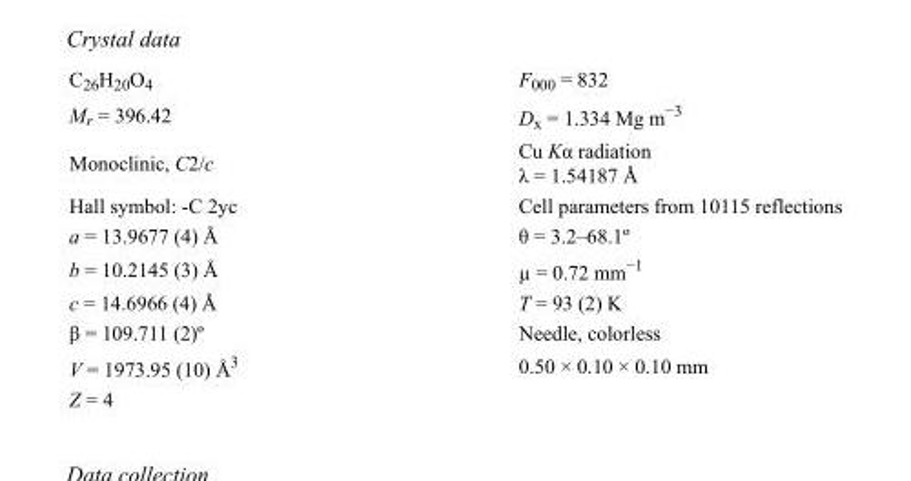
<table><tbody><tr><td>C<sub>26</sub>H<sub>20</sub>O<sub>4</sub></td><td>F<sub>000</sub> = 832</td></tr><tr><td>M<sub>r</sub> = 396.42</td><td>D<sub>x</sub> = 1.334 Mg m<sup>−3</sup></td></tr><tr><td>Monoclinic, C2/c</td><td>Cu Kα radiation λ = 1.54187 Å</td></tr><tr><td>Hall symbol: -C 2yc</td><td>Cell parameters from 10115 reflections</td></tr><tr><td>a = 13.9677 (4) Å</td><td>θ = 3.2–68.1º</td></tr><tr><td>b = 10.2145 (3) Å</td><td>µ = 0.72 mm<sup>−1</sup></td></tr><tr><td>c = 14.6966 (4) Å</td><td>T = 93 (2) K</td></tr><tr><td>β = 109.711 (2)º</td><td>Needle, colorless</td></tr><tr><td>V = 1973.95 (10) Å<sup>3</sup></td><td>0.50 × 0.10 × 0.10 mm</td></tr><tr><td>Z = 4</td><td></td></tr></tbody></table>